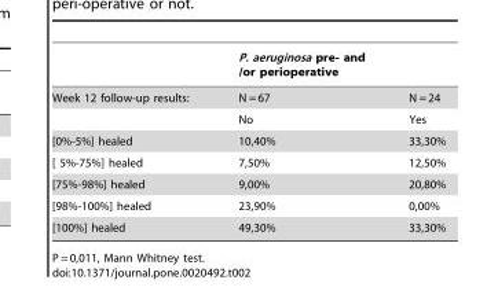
<table><thead><tr><td rowspan="2">Week 12 follow-up results:</td><td colspan="2">P. aeruginosa pre- and /or perioperative</td></tr><tr><td>N = 67</td><td>N = 24</td></tr></thead><tbody><tr><td></td><td>No</td><td>Yes</td></tr><tr><td>[0%-5%] healed</td><td>10,40%</td><td>33,30%</td></tr><tr><td>[ 5%-75%] healed</td><td>7,50%</td><td>12,50%</td></tr><tr><td>[75%-98%] healed</td><td>9,00%</td><td>20,80%</td></tr><tr><td>[98%-100%] healed</td><td>23,90%</td><td>0,00%</td></tr><tr><td>[100%] healed</td><td>49,30%</td><td>33,30%</td></tr></tbody></table>